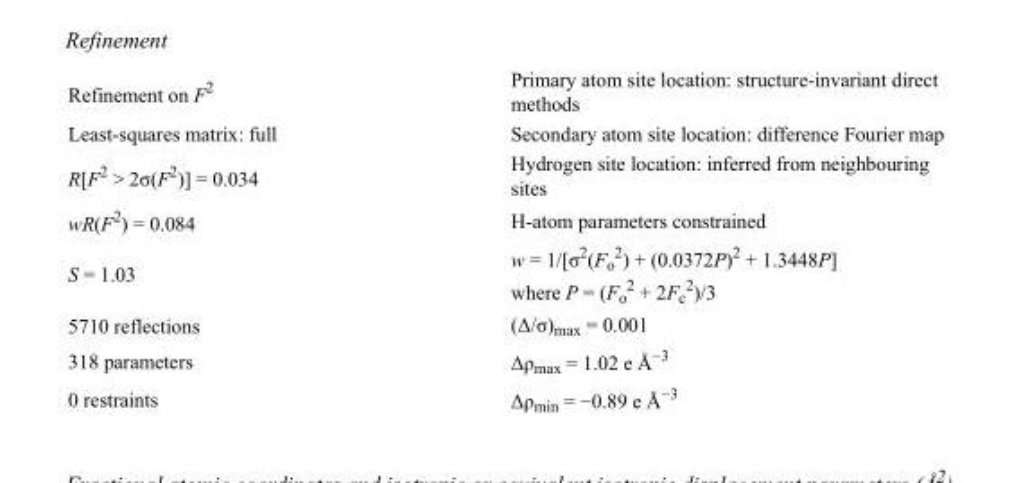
<table><tbody><tr><td>Refinement on F<sup>2</sup></td><td>Primary atom site location: structure-invariant direct methods</td></tr><tr><td>Least-squares matrix: full</td><td>Secondary atom site location: difference Fourier map</td></tr><tr><td>R[F<sup>2</sup> &gt; 2σ(F<sup>2</sup>)] = 0.034</td><td>Hydrogen site location: inferred from neighbouring sites</td></tr><tr><td>wR(F<sup>2</sup>) = 0.084</td><td>H-atom parameters constrained</td></tr><tr><td>S = 1.03</td><td>w = 1/[σ<sup>2</sup>(F<sub>o</sub> <sup>2</sup>) + (0.0372P)<sup>2</sup> + 1.3448P] where P = (F<sub>o</sub> <sup>2</sup> + 2F<sub>c</sub> <sup>2</sup>)/3</td></tr><tr><td>5710 reflections</td><td>(Δ/σ)<sub>max</sub> = 0.001</td></tr><tr><td>318 parameters</td><td>Δρ<sub>max</sub> = 1.02 e Å<sup>−3</sup></td></tr><tr><td>0 restraints</td><td>Δρ<sub>min</sub> = −0.89 e Å<sup>−3</sup></td></tr></tbody></table>